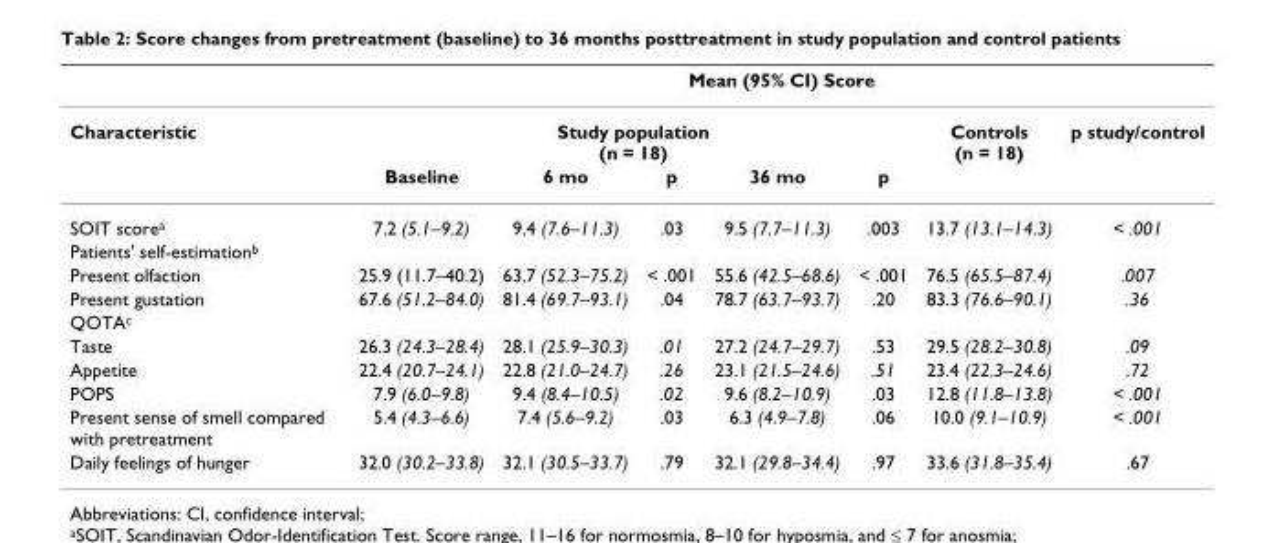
<table><thead><tr><td rowspan="3">Characteristic</td><td colspan="7">Mean (95% CI) Score</td></tr><tr><td colspan="5">Study population (n = 18)</td><td rowspan="2">Controls (n = 18)</td><td rowspan="2">p study/control</td></tr><tr><td>Baseline</td><td>6 mo</td><td>p</td><td>36 mo</td><td>p</td></tr></thead><tbody><tr><td>SOIT score<sup>a</sup></td><td>7.2 (5.1–9.2)</td><td>9.4 (7.6–11.3)</td><td>.03</td><td>9.5 (7.7–11.3)</td><td>.003</td><td>13.7 (13.1–14.3)</td><td>&lt; .001</td></tr><tr><td colspan="8">Patients&#x27; self-estimation<sup>b</sup></td></tr><tr><td>Present olfaction</td><td>25.9 (11.7–40.2)</td><td>63.7 (52.3–75.2)</td><td>&lt; .001</td><td>55.6 (42.5–68.6)</td><td>&lt; .001</td><td>76.5 (65.5–87.4)</td><td>.007</td></tr><tr><td>Present gustation</td><td>67.6 (51.2–84.0)</td><td>81.4 (69.7–93.1)</td><td>.04</td><td>78.7 (63.7–93.7)</td><td>.20</td><td>83.3 (76.6–90.1)</td><td>.36</td></tr><tr><td colspan="8">QOTA<sup>c</sup></td></tr><tr><td>Taste</td><td>26.3 (24.3–28.4)</td><td>28.1 (25.9–30.3)</td><td>.01</td><td>27.2 (24.7–29.7)</td><td>.53</td><td>29.5 (28.2–30.8)</td><td>.09</td></tr><tr><td>Appetite</td><td>22.4 (20.7–24.1)</td><td>22.8 (21.0–24.7)</td><td>.26</td><td>23.1 (21.5–24.6)</td><td>.51</td><td>23.4 (22.3–24.6)</td><td>.72</td></tr><tr><td>POPS</td><td>7.9 (6.0–9.8)</td><td>9.4 (8.4–10.5)</td><td>.02</td><td>9.6 (8.2–10.9)</td><td>.03</td><td>12.8 (11.8–13.8)</td><td>&lt; .001</td></tr><tr><td>Present sense of smell compared with pretreatment</td><td>5.4 (4.3–6.6)</td><td>7.4 (5.6–9.2)</td><td>.03</td><td>6.3 (4.9–7.8)</td><td>.06</td><td>10.0 (9.1–10.9)</td><td>&lt; .001</td></tr><tr><td>Daily feelings of hunger</td><td>32.0 (30.2–33.8)</td><td>32.1 (30.5–33.7)</td><td>.79</td><td>32.1 (29.8–34.4)</td><td>.97</td><td>33.6 (31.8–35.4)</td><td>.67</td></tr></tbody></table>